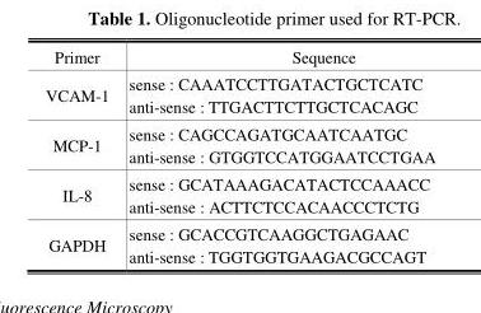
<table><thead><tr><td>Primer</td><td>Sequence</td></tr></thead><tbody><tr><td rowspan="2">VCAM-1</td><td>sense : CAAATCCTTGATACTGCTCATC</td></tr><tr><td>anti-sense : TTGACTTCTTGCTCACAGC</td></tr><tr><td rowspan="2">MCP-1</td><td>sense : CAGCCAGATGCAATCAATGC</td></tr><tr><td>anti-sense : GTGGTCCATGGAATCCTGAA</td></tr><tr><td rowspan="2">IL-8</td><td>sense : GCATAAAGACATACTCCAAACC</td></tr><tr><td>anti-sense : ACTTCTCCACAACCCTCTG</td></tr><tr><td rowspan="2">GAPDH</td><td>sense : GCACCGTCAAGGCTGAGAAC</td></tr><tr><td>anti-sense : TGGTGGTGAAGACGCCAGT</td></tr></tbody></table>